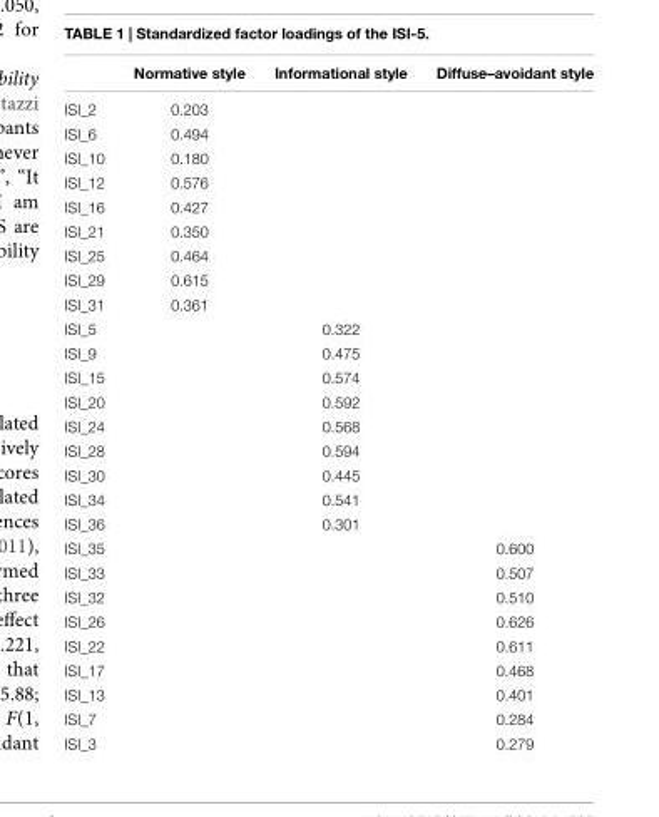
<table><thead><tr><td></td><td>Normative style</td><td>Informational style</td><td>Diffuse–avoidant style</td></tr></thead><tbody><tr><td>ISI_2</td><td>0.203</td><td></td><td></td></tr><tr><td>ISI_6</td><td>0.494</td><td></td><td></td></tr><tr><td>ISI_10</td><td>0.180</td><td></td><td></td></tr><tr><td>ISI_12</td><td>0.576</td><td></td><td></td></tr><tr><td>ISI_16</td><td>0.427</td><td></td><td></td></tr><tr><td>ISI_21</td><td>0.350</td><td></td><td></td></tr><tr><td>ISI_25</td><td>0.464</td><td></td><td></td></tr><tr><td>ISI_29</td><td>0.615</td><td></td><td></td></tr><tr><td>ISI_31</td><td>0.361</td><td></td><td></td></tr><tr><td>ISI_5</td><td></td><td>0.322</td><td></td></tr><tr><td>ISI_9</td><td></td><td>0.475</td><td></td></tr><tr><td>ISI_15</td><td></td><td>0.574</td><td></td></tr><tr><td>ISI_20</td><td></td><td>0.592</td><td></td></tr><tr><td>ISI_24</td><td></td><td>0.568</td><td></td></tr><tr><td>ISI_28</td><td></td><td>0.594</td><td></td></tr><tr><td>ISI_30</td><td></td><td>0.445</td><td></td></tr><tr><td>ISI_34</td><td></td><td>0.541</td><td></td></tr><tr><td>ISI_36</td><td></td><td>0.301</td><td></td></tr><tr><td>ISI_35</td><td></td><td></td><td>0.600</td></tr><tr><td>ISI_33</td><td></td><td></td><td>0.507</td></tr><tr><td>ISI_32</td><td></td><td></td><td>0.510</td></tr><tr><td>ISI_26</td><td></td><td></td><td>0.626</td></tr><tr><td>ISI_22</td><td></td><td></td><td>0.611</td></tr><tr><td>ISI_17</td><td></td><td></td><td>0.468</td></tr><tr><td>ISI_13</td><td></td><td></td><td>0.401</td></tr><tr><td>ISI_7</td><td></td><td></td><td>0.284</td></tr><tr><td>ISI_3</td><td></td><td></td><td>0.279</td></tr></tbody></table>